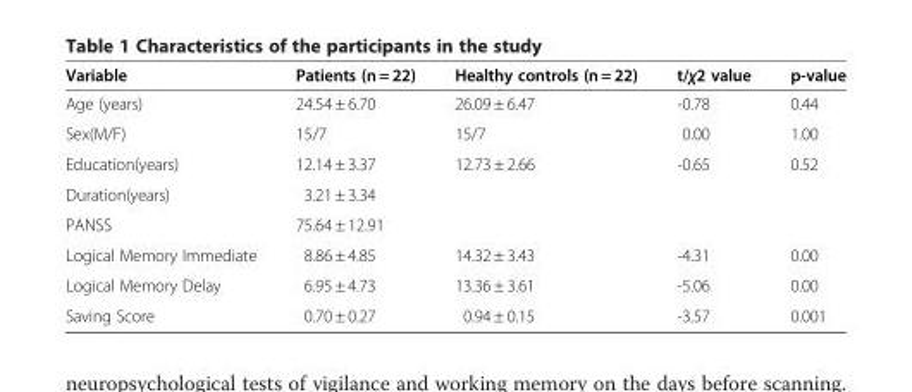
<table><thead><tr><td>Variable</td><td>Patients (n = 22)</td><td>Healthy controls (n = 22)</td><td>t/χ2 value</td><td>p-value</td></tr></thead><tbody><tr><td>Age (years)</td><td>24.54 ± 6.70</td><td>26.09 ± 6.47</td><td>-0.78</td><td>0.44</td></tr><tr><td>Sex(M/F)</td><td>15/7</td><td>15/7</td><td>0.00</td><td>1.00</td></tr><tr><td>Education(years)</td><td>12.14 ± 3.37</td><td>12.73 ± 2.66</td><td>-0.65</td><td>0.52</td></tr><tr><td>Duration(years)</td><td>3.21 ± 3.34</td><td></td><td></td><td></td></tr><tr><td>PANSS</td><td>75.64 ± 12.91</td><td></td><td></td><td></td></tr><tr><td>Logical Memory Immediate</td><td>8.86 ± 4.85</td><td>14.32 ± 3.43</td><td>-4.31</td><td>0.00</td></tr><tr><td>Logical Memory Delay</td><td>6.95 ± 4.73</td><td>13.36 ± 3.61</td><td>-5.06</td><td>0.00</td></tr><tr><td>Saving Score</td><td>0.70 ± 0.27</td><td>0.94 ± 0.15</td><td>-3.57</td><td>0.001</td></tr></tbody></table>